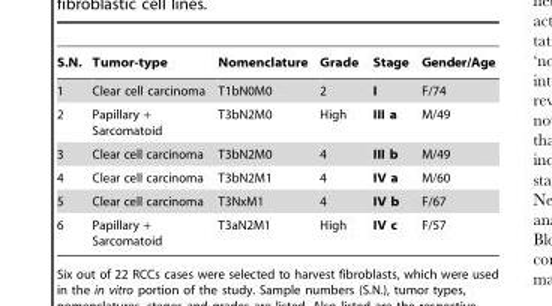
<table><thead><tr><td>S.N.</td><td>Tumor-type</td><td>Nomenclature</td><td>Grade</td><td>Stage</td><td>Gender/Age</td></tr></thead><tbody><tr><td>1</td><td>Clear cell carcinoma</td><td>T1bN0M0</td><td>2</td><td>I</td><td>F/74</td></tr><tr><td>2</td><td>Papillary + Sarcomatoid</td><td>T3bN2M0</td><td>High</td><td>III a</td><td>M/49</td></tr><tr><td>3</td><td>Clear cell carcinoma</td><td>T3bN2M0</td><td>4</td><td>III b</td><td>M/49</td></tr><tr><td>4</td><td>Clear cell carcinoma</td><td>T3bN2M1</td><td>4</td><td>IV a</td><td>M/60</td></tr><tr><td>5</td><td>Clear cell carcinoma</td><td>T3NxM1</td><td>4</td><td>IV b</td><td>F/67</td></tr><tr><td>6</td><td>Papillary + Sarcomatoid</td><td>T3aN2M1</td><td>High</td><td>IV c</td><td>F/57</td></tr></tbody></table>